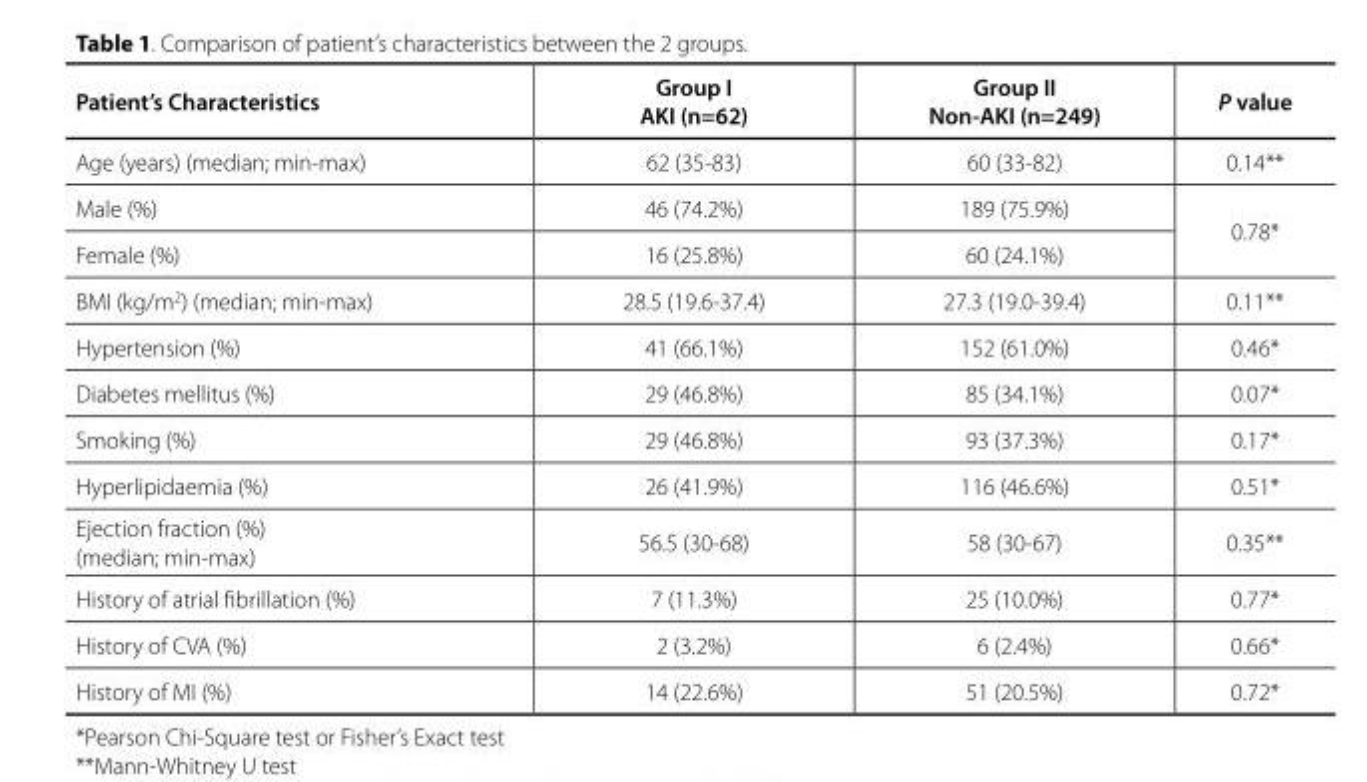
<table><thead><tr><td>Patient’s Characteristics</td><td>Group I AKI (n=62)</td><td>Group II Non-AKI (n=249)</td><td>P value</td></tr></thead><tbody><tr><td>Age (years) (median; min-max)</td><td>62 (35-83)</td><td>60 (33-82)</td><td>0.14**</td></tr><tr><td>Male (%)</td><td>46 (74.2%)</td><td>189 (75.9%)</td><td rowspan="2">0.78*</td></tr><tr><td>Female (%)</td><td>16 (25.8%)</td><td>60 (24.1%)</td></tr><tr><td>BMI (kg/m<sup>2</sup>) (median; min-max)</td><td>28.5 (19.6-37.4)</td><td>27.3 (19.0-39.4)</td><td>0.11**</td></tr><tr><td>Hypertension (%)</td><td>41 (66.1%)</td><td>152 (61.0%)</td><td>0.46*</td></tr><tr><td>Diabetes mellitus (%)</td><td>29 (46.8%)</td><td>85 (34.1%)</td><td>0.07*</td></tr><tr><td>Smoking (%)</td><td>29 (46.8%)</td><td>93 (37.3%)</td><td>0.17*</td></tr><tr><td>Hyperlipidaemia (%)</td><td>26 (41.9%)</td><td>116 (46.6%)</td><td>0.51*</td></tr><tr><td>Ejection fraction (%) (median; min-max)</td><td>56.5 (30-68)</td><td>58 (30-67)</td><td>0.35**</td></tr><tr><td>History of atrial fibrillation (%)</td><td>7 (11.3%)</td><td>25 (10.0%)</td><td>0.77*</td></tr><tr><td>History of CVA (%)</td><td>2 (3.2%)</td><td>6 (2.4%)</td><td>0.66*</td></tr><tr><td>History of MI (%)</td><td>14 (22.6%)</td><td>51 (20.5%)</td><td>0.72*</td></tr></tbody></table>